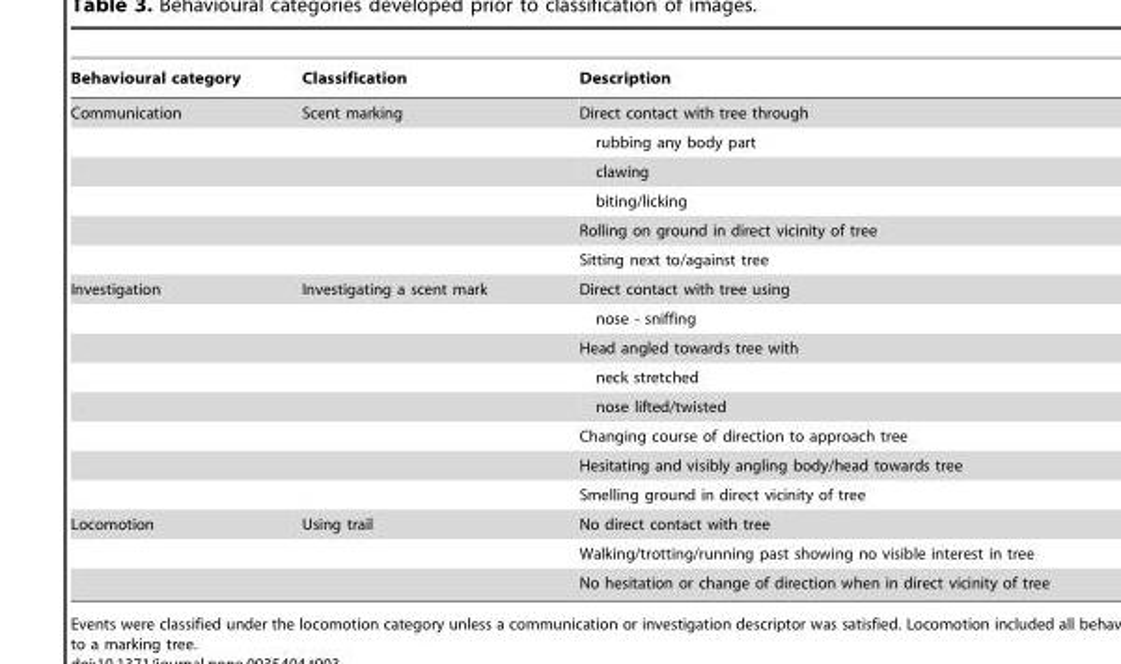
<table><thead><tr><td>Behavioural category</td><td>Classification</td><td>Description</td></tr></thead><tbody><tr><td rowspan="6">Communication</td><td>Scent marking</td><td>Direct contact with tree through</td></tr><tr><td></td><td>rubbing any body part</td></tr><tr><td></td><td>clawing</td></tr><tr><td></td><td>biting/licking</td></tr><tr><td></td><td>Rolling on ground in direct vicinity of tree</td></tr><tr><td></td><td>Sitting next to/against tree</td></tr><tr><td rowspan="8">Investigation</td><td>Investigating a scent mark</td><td>Direct contact with tree using</td></tr><tr><td></td><td>nose - sniffing</td></tr><tr><td></td><td>Head angled towards tree with</td></tr><tr><td></td><td>neck stretched</td></tr><tr><td></td><td>nose lifted/twisted</td></tr><tr><td></td><td>Changing course of direction to approach tree</td></tr><tr><td></td><td>Hesitating and visibly angling body/head towards tree</td></tr><tr><td></td><td>Smelling ground in direct vicinity of tree</td></tr><tr><td rowspan="3">Locomotion</td><td>Using trail</td><td>No direct contact with tree</td></tr><tr><td></td><td>Walking/trotting/running past showing no visible interest in tree</td></tr><tr><td></td><td>No hesitation or change of direction when in direct vicinity of tree</td></tr></tbody></table>